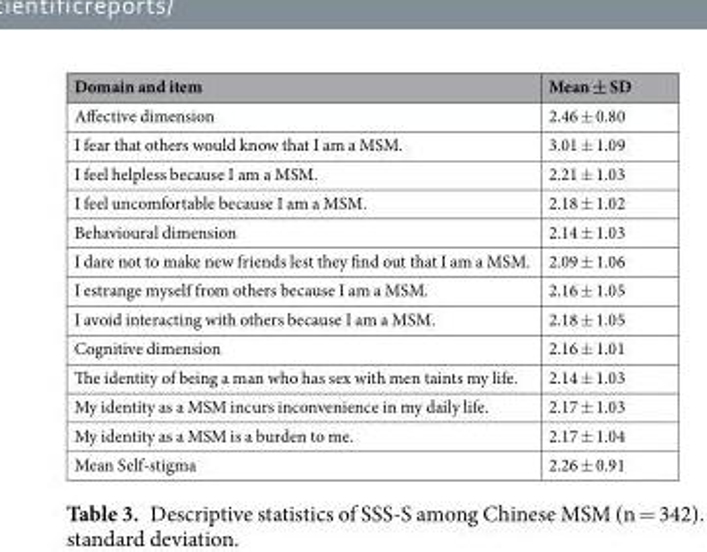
<table><thead><tr><td>Domain and item</td><td>Mean ± SD</td></tr></thead><tbody><tr><td>Affective dimension</td><td>2.46 ± 0.80</td></tr><tr><td>I fear that others would know that I am a MSM.</td><td>3.01 ± 1.09</td></tr><tr><td>I feel helpless because I am a MSM.</td><td>2.21 ± 1.03</td></tr><tr><td>I feel uncomfortable because I am a MSM.</td><td>2.18 ± 1.02</td></tr><tr><td>Behavioural dimension</td><td>2.14 ± 1.03</td></tr><tr><td>I dare not to make new friends lest they find out that I am a MSM.</td><td>2.09 ± 1.06</td></tr><tr><td>I estrange myself from others because I am a MSM.</td><td>2.16 ± 1.05</td></tr><tr><td>I avoid interacting with others because I am a MSM.</td><td>2.18 ± 1.05</td></tr><tr><td>Cognitive dimension</td><td>2.16 ± 1.01</td></tr><tr><td>The identity of being a man who has sex with men taints my life.</td><td>2.14 ± 1.03</td></tr><tr><td>My identity as a MSM incurs inconvenience in my daily life.</td><td>2.17 ± 1.03</td></tr><tr><td>My identity as a MSM is a burden to me.</td><td>2.17 ± 1.04</td></tr><tr><td>Mean Self-stigma</td><td>2.26 ± 0.91</td></tr></tbody></table>